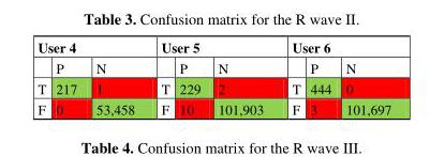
<table><thead><tr><td colspan="3">User 4</td><td colspan="3">User 5</td><td colspan="3">User 6</td></tr><tr><td></td><td>P</td><td>N</td><td></td><td>P</td><td>N</td><td></td><td>P</td><td>N</td></tr></thead><tbody><tr><td>T</td><td>217</td><td>1</td><td>T</td><td>229</td><td>2</td><td>T</td><td>444</td><td>0</td></tr><tr><td>F</td><td>0</td><td>53,458</td><td>F</td><td>10</td><td>101,903</td><td>F</td><td>3</td><td>101,697</td></tr></tbody></table>